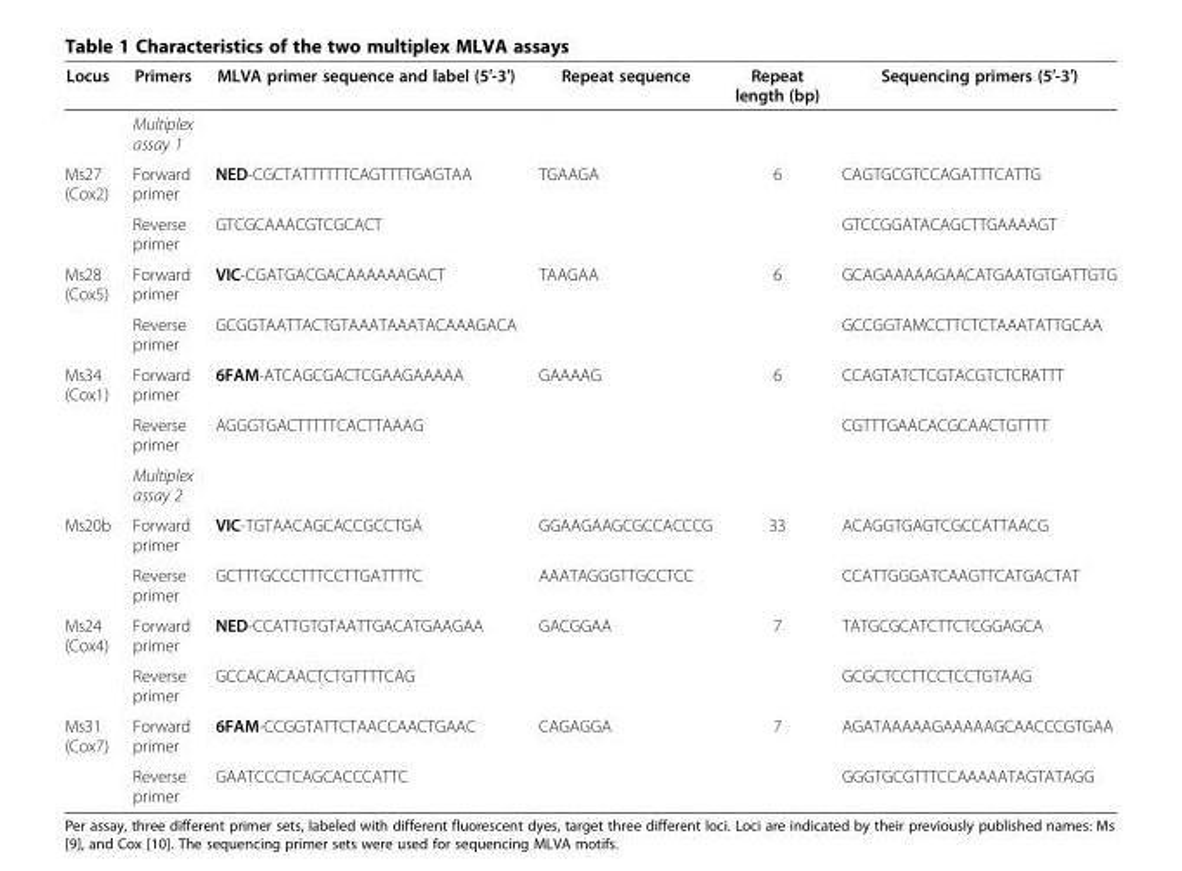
<table><thead><tr><td>Locus</td><td>Primers</td><td>MLVA primer sequence and label (5′-3′)</td><td>Repeat sequence</td><td>Repeat length (bp)</td><td>Sequencing primers (5′-3′)</td></tr></thead><tbody><tr><td></td><td>Multiplex assay 1</td><td></td><td></td><td></td><td></td></tr><tr><td rowspan="2">Ms27 (Cox2)</td><td>Forward primer</td><td>NED-CGCTATTTTTTCAGTTTTGAGTAA</td><td rowspan="2">TGAAGA</td><td rowspan="2">6</td><td>CAGTGCGTCCAGATTTCATTG</td></tr><tr><td>Reverse primer</td><td>GTCGCAAACGTCGCACT</td><td>GTCCGGATACAGCTTGAAAAGT</td></tr><tr><td rowspan="2">Ms28 (Cox5)</td><td>Forward primer</td><td>VIC-CGATGACGACAAAAAAGACT</td><td rowspan="2">TAAGAA</td><td rowspan="2">6</td><td>GCAGAAAAAGAACATGAATGTGATTGTG</td></tr><tr><td>Reverse primer</td><td>GCGGTAATTACTGTAAATAAATACAAAGACA</td><td>GCCGGTAMCCTTCTCTAAATATTGCAA</td></tr><tr><td rowspan="3">Ms34 (Cox1)</td><td>Forward primer</td><td>6FAM-ATCAGCGACTCGAAGAAAAA</td><td rowspan="2">GAAAAG</td><td rowspan="2">6</td><td>CCAGTATCTCGTACGTCTCRATTT</td></tr><tr><td>Reverse primer</td><td>AGGGTGACTTTTTCACTTAAAG</td><td>CGTTTGAACACGCAACTGTTTT</td></tr><tr><td>Multiplex assay 2</td><td></td><td></td><td></td><td></td></tr><tr><td rowspan="2">Ms20b</td><td>Forward primer</td><td>VIC-TGTAACAGCACCGCCTGA</td><td>GGAAGAAGCGCCACCCG</td><td rowspan="2">33</td><td>ACAGGTGAGTCGCCATTAACG</td></tr><tr><td>Reverse primer</td><td>GCTTTGCCCTTTCCTTGATTTTC</td><td>AAATAGGGTTGCCTCC</td><td>CCATTGGGATCAAGTTCATGACTAT</td></tr><tr><td rowspan="2">Ms24 (Cox4)</td><td>Forward primer</td><td>NED-CCATTGTGTAATTGACATGAAGAA</td><td rowspan="2">GACGGAA</td><td rowspan="2">7</td><td>TATGCGCATCTTCTCGGAGCA</td></tr><tr><td>Reverse primer</td><td>GCCACACAACTCTGTTTTCAG</td><td>GCGCTCCTTCCTCCTGTAAG</td></tr><tr><td rowspan="2">Ms31 (Cox7)</td><td>Forward primer</td><td>6FAM-CCGGTATTCTAACCAACTGAAC</td><td rowspan="2">CAGAGGA</td><td rowspan="2">7</td><td>AGATAAAAAGAAAAAGCAACCCGTGAA</td></tr><tr><td>Reverse primer</td><td>GAATCCCTCAGCACCCATTC</td><td>GGGTGCGTTTCCAAAAATAGTATAGG</td></tr></tbody></table>